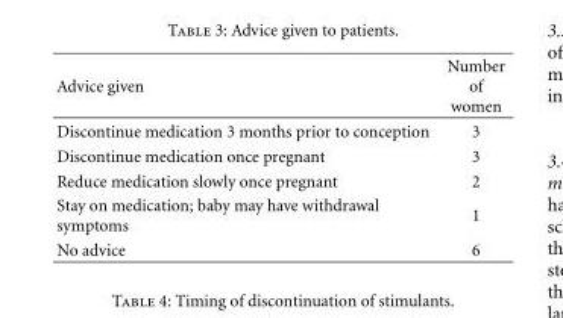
<table><thead><tr><td>Advice given</td><td>Number of women</td></tr></thead><tbody><tr><td>Discontinue medication 3 months prior to conception</td><td>3</td></tr><tr><td>Discontinue medication once pregnant</td><td>3</td></tr><tr><td>Reduce medication slowly once pregnant</td><td>2</td></tr><tr><td>Stay on medication; baby may have withdrawal symptoms</td><td>1</td></tr><tr><td>No advice</td><td>6</td></tr></tbody></table>